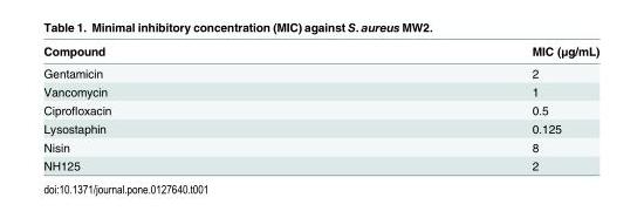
<table><thead><tr><td>Compound</td><td>MIC (μg/mL)</td></tr></thead><tbody><tr><td>Gentamicin</td><td>2</td></tr><tr><td>Vancomycin</td><td>1</td></tr><tr><td>Ciprofloxacin</td><td>0.5</td></tr><tr><td>Lysostaphin</td><td>0.125</td></tr><tr><td>Nisin</td><td>8</td></tr><tr><td>NH125</td><td>2</td></tr></tbody></table>